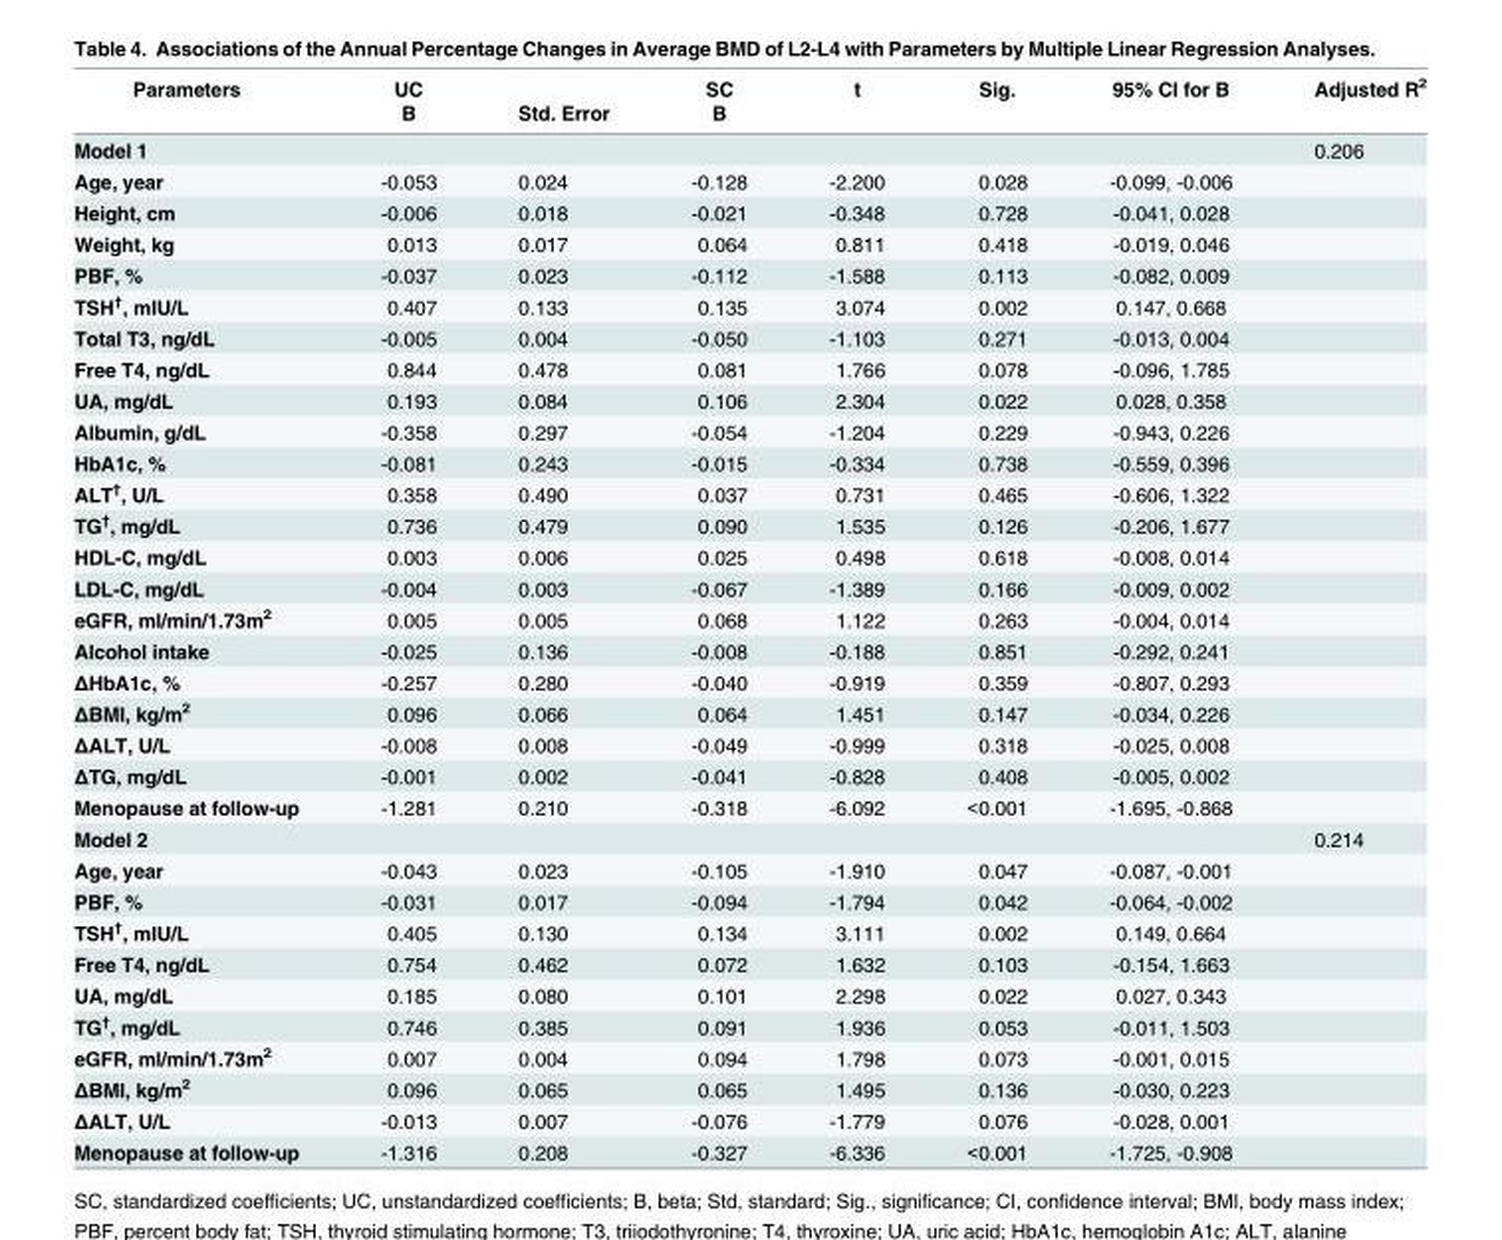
<table><thead><tr><td rowspan="2">Parameters</td><td rowspan="2">UC B</td><td rowspan="2">Std. Error</td><td rowspan="2">SC B</td><td rowspan="2">t</td><td rowspan="2">Sig.</td><td rowspan="2">95% CI for B</td><td rowspan="2">Adjusted R<sup>2</sup></td></tr><tr></tr></thead><tbody><tr><td>Model 1</td><td></td><td></td><td></td><td></td><td></td><td></td><td>0.206</td></tr><tr><td>Age, year</td><td>-0.053</td><td>0.024</td><td>-0.128</td><td>-2.200</td><td>0.028</td><td>-0.099, -0.006</td><td></td></tr><tr><td>Height, cm</td><td>-0.006</td><td>0.018</td><td>-0.021</td><td>-0.348</td><td>0.728</td><td>-0.041, 0.028</td><td></td></tr><tr><td>Weight, kg</td><td>0.013</td><td>0.017</td><td>0.064</td><td>0.811</td><td>0.418</td><td>-0.019, 0.046</td><td></td></tr><tr><td>PBF, %</td><td>-0.037</td><td>0.023</td><td>-0.112</td><td>-1.588</td><td>0.113</td><td>-0.082, 0.009</td><td></td></tr><tr><td>TSH<sup>†</sup>, mIU/L</td><td>0.407</td><td>0.133</td><td>0.135</td><td>3.074</td><td>0.002</td><td>0.147, 0.668</td><td></td></tr><tr><td>Total T3, ng/dL</td><td>-0.005</td><td>0.004</td><td>-0.050</td><td>-1.103</td><td>0.271</td><td>-0.013, 0.004</td><td></td></tr><tr><td>Free T4, ng/dL</td><td>0.844</td><td>0.478</td><td>0.081</td><td>1.766</td><td>0.078</td><td>-0.096, 1.785</td><td></td></tr><tr><td>UA, mg/dL</td><td>0.193</td><td>0.084</td><td>0.106</td><td>2.304</td><td>0.022</td><td>0.028, 0.358</td><td></td></tr><tr><td>Albumin, g/dL</td><td>-0.358</td><td>0.297</td><td>-0.054</td><td>-1.204</td><td>0.229</td><td>-0.943, 0.226</td><td></td></tr><tr><td>HbA1c, %</td><td>-0.081</td><td>0.243</td><td>-0.015</td><td>-0.334</td><td>0.738</td><td>-0.559, 0.396</td><td></td></tr><tr><td>ALT<sup>†</sup>, U/L</td><td>0.358</td><td>0.490</td><td>0.037</td><td>0.731</td><td>0.465</td><td>-0.606, 1.322</td><td></td></tr><tr><td>TG<sup>†</sup>, mg/dL</td><td>0.736</td><td>0.479</td><td>0.090</td><td>1.535</td><td>0.126</td><td>-0.206, 1.677</td><td></td></tr><tr><td>HDL-C, mg/dL</td><td>0.003</td><td>0.006</td><td>0.025</td><td>0.498</td><td>0.618</td><td>-0.008, 0.014</td><td></td></tr><tr><td>LDL-C, mg/dL</td><td>-0.004</td><td>0.003</td><td>-0.067</td><td>-1.389</td><td>0.166</td><td>-0.009, 0.002</td><td></td></tr><tr><td>eGFR, ml/min/1.73m<sup>2</sup></td><td>0.005</td><td>0.005</td><td>0.068</td><td>1.122</td><td>0.263</td><td>-0.004, 0.014</td><td></td></tr><tr><td>Alcohol intake</td><td>-0.025</td><td>0.136</td><td>-0.008</td><td>-0.188</td><td>0.851</td><td>-0.292, 0.241</td><td></td></tr><tr><td>ΔHbA1c, %</td><td>-0.257</td><td>0.280</td><td>-0.040</td><td>-0.919</td><td>0.359</td><td>-0.807, 0.293</td><td></td></tr><tr><td>ΔBMI, kg/m<sup>2</sup></td><td>0.096</td><td>0.066</td><td>0.064</td><td>1.451</td><td>0.147</td><td>-0.034, 0.226</td><td></td></tr><tr><td>ΔALT, U/L</td><td>-0.008</td><td>0.008</td><td>-0.049</td><td>-0.999</td><td>0.318</td><td>-0.025, 0.008</td><td></td></tr><tr><td>ΔTG, mg/dL</td><td>-0.001</td><td>0.002</td><td>-0.041</td><td>-0.828</td><td>0.408</td><td>-0.005, 0.002</td><td></td></tr><tr><td>Menopause at follow-up</td><td>-1.281</td><td>0.210</td><td>-0.318</td><td>-6.092</td><td>&lt;0.001</td><td>-1.695, -0.868</td><td></td></tr><tr><td>Model 2</td><td></td><td></td><td></td><td></td><td></td><td></td><td>0.214</td></tr><tr><td>Age, year</td><td>-0.043</td><td>0.023</td><td>-0.105</td><td>-1.910</td><td>0.047</td><td>-0.087, -0.001</td><td></td></tr><tr><td>PBF, %</td><td>-0.031</td><td>0.017</td><td>-0.094</td><td>-1.794</td><td>0.042</td><td>-0.064, -0.002</td><td></td></tr><tr><td>TSH<sup>†</sup>, mIU/L</td><td>0.405</td><td>0.130</td><td>0.134</td><td>3.111</td><td>0.002</td><td>0.149, 0.664</td><td></td></tr><tr><td>Free T4, ng/dL</td><td>0.754</td><td>0.462</td><td>0.072</td><td>1.632</td><td>0.103</td><td>-0.154, 1.663</td><td></td></tr><tr><td>UA, mg/dL</td><td>0.185</td><td>0.080</td><td>0.101</td><td>2.298</td><td>0.022</td><td>0.027, 0.343</td><td></td></tr><tr><td>TG<sup>†</sup>, mg/dL</td><td>0.746</td><td>0.385</td><td>0.091</td><td>1.936</td><td>0.053</td><td>-0.011, 1.503</td><td></td></tr><tr><td>eGFR, ml/min/1.73m<sup>2</sup></td><td>0.007</td><td>0.004</td><td>0.094</td><td>1.798</td><td>0.073</td><td>-0.001, 0.015</td><td></td></tr><tr><td>ΔBMI, kg/m<sup>2</sup></td><td>0.096</td><td>0.065</td><td>0.065</td><td>1.495</td><td>0.136</td><td>-0.030, 0.223</td><td></td></tr><tr><td>ΔALT, U/L</td><td>-0.013</td><td>0.007</td><td>-0.076</td><td>-1.779</td><td>0.076</td><td>-0.028, 0.001</td><td></td></tr><tr><td>Menopause at follow-up</td><td>-1.316</td><td>0.208</td><td>-0.327</td><td>-6.336</td><td>&lt;0.001</td><td>-1.725, -0.908</td><td></td></tr></tbody></table>